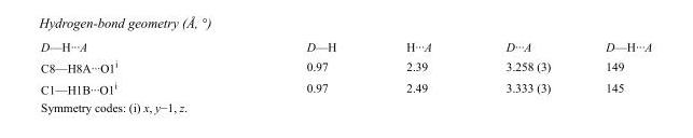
<table><tbody><tr><td>D—H···A</td><td>D—H</td><td>H···A</td><td>D···A</td><td>D—H···A</td></tr><tr><td>C8—H8A···O1<sup>i</sup></td><td>0.97</td><td>2.39</td><td>3.258 (3)</td><td>149</td></tr><tr><td>C1—H1B···O1<sup>i</sup></td><td>0.97</td><td>2.49</td><td>3.333 (3)</td><td>145</td></tr></tbody></table>